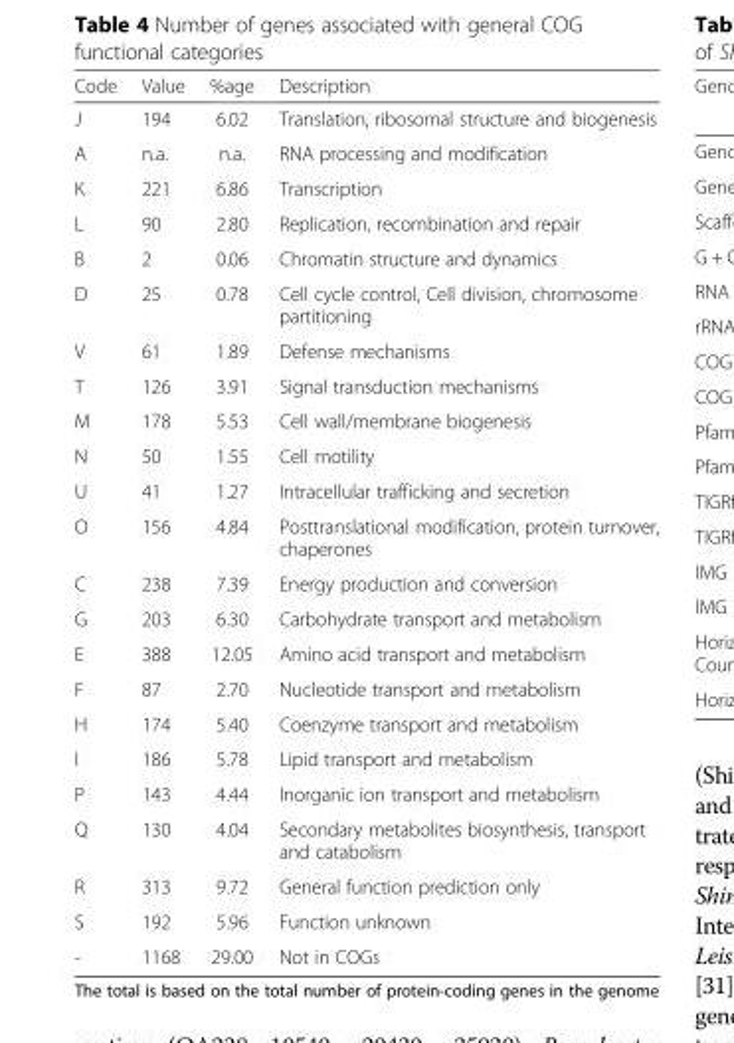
<table><thead><tr><td>Code</td><td>Value</td><td>%age</td><td>Description</td></tr></thead><tbody><tr><td>J</td><td>194</td><td>6.02</td><td>Translation, ribosomal structure and biogenesis</td></tr><tr><td>A</td><td>n.a.</td><td>n.a.</td><td>RNA processing and modification</td></tr><tr><td>K</td><td>221</td><td>6.86</td><td>Transcription</td></tr><tr><td>L</td><td>90</td><td>2.80</td><td>Replication, recombination and repair</td></tr><tr><td>B</td><td>2</td><td>0.06</td><td>Chromatin structure and dynamics</td></tr><tr><td>D</td><td>25</td><td>0.78</td><td>Cell cycle control, Cell division, chromosome partitioning</td></tr><tr><td>V</td><td>61</td><td>1.89</td><td>Defense mechanisms</td></tr><tr><td>T</td><td>126</td><td>3.91</td><td>Signal transduction mechanisms</td></tr><tr><td>M</td><td>178</td><td>5.53</td><td>Cell wall/membrane biogenesis</td></tr><tr><td>N</td><td>50</td><td>1.55</td><td>Cell motility</td></tr><tr><td>U</td><td>41</td><td>1.27</td><td>Intracellular trafficking and secretion</td></tr><tr><td>O</td><td>156</td><td>4.84</td><td>Posttranslational modification, protein turnover, chaperones</td></tr><tr><td>C</td><td>238</td><td>7.39</td><td>Energy production and conversion</td></tr><tr><td>G</td><td>203</td><td>6.30</td><td>Carbohydrate transport and metabolism</td></tr><tr><td>E</td><td>388</td><td>12.05</td><td>Amino acid transport and metabolism</td></tr><tr><td>F</td><td>87</td><td>2.70</td><td>Nucleotide transport and metabolism</td></tr><tr><td>H</td><td>174</td><td>5.40</td><td>Coenzyme transport and metabolism</td></tr><tr><td>I</td><td>186</td><td>5.78</td><td>Lipid transport and metabolism</td></tr><tr><td>P</td><td>143</td><td>4.44</td><td>Inorganic ion transport and metabolism</td></tr><tr><td>Q</td><td>130</td><td>4.04</td><td>Secondary metabolites biosynthesis, transport and catabolism</td></tr><tr><td>R</td><td>313</td><td>9.72</td><td>General function prediction only</td></tr><tr><td>S</td><td>192</td><td>5.96</td><td>Function unknown</td></tr><tr><td>-</td><td>1168</td><td>29.00</td><td>Not in COGs</td></tr></tbody></table>